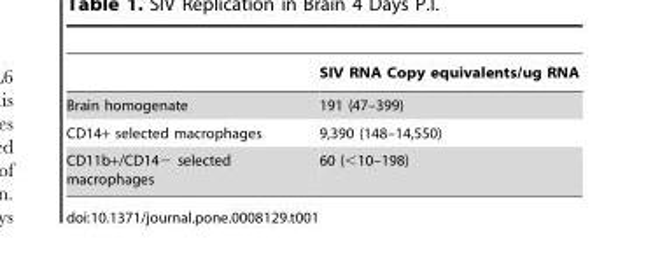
<table><thead><tr><td></td><td>SIV RNA Copy equivalents/ug RNA</td></tr></thead><tbody><tr><td>Brain homogenate</td><td>191 (47–399)</td></tr><tr><td>CD14+ selected macrophages</td><td>9,390 (148–14,550)</td></tr><tr><td>CD11b+/CD14− selected macrophages</td><td>60 (&lt;10–198)</td></tr></tbody></table>